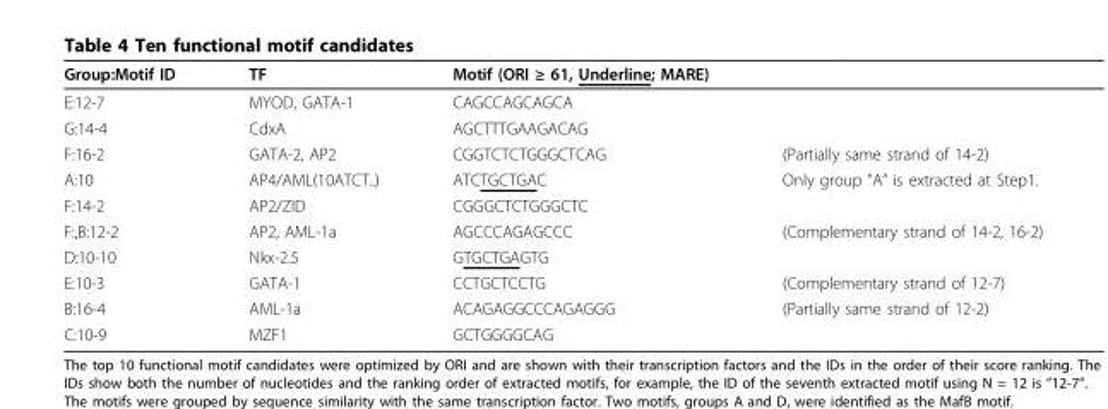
<table><thead><tr><td>Group:Motif ID</td><td>TF</td><td>Motif (ORI ≥ 61, Underline; MARE)</td><td></td></tr></thead><tbody><tr><td>E:12-7</td><td>MYOD, GATA-1</td><td>CAGCCAGCAGCA</td><td></td></tr><tr><td>G:14-4</td><td>CdxA</td><td>AGCTTTGAAGACAG</td><td></td></tr><tr><td>F:16-2</td><td>GATA-2, AP2</td><td>CGGTCTCTGGGCTCAG</td><td>(Partially same strand of 14-2)</td></tr><tr><td>A:10</td><td>AP4/AML(10ATCT..)</td><td>ATCTGCTGAC</td><td>Only group ”A” is extracted at Step1.</td></tr><tr><td>F:14-2</td><td>AP2/ZID</td><td>CGGGCTCTGGGCTC</td><td></td></tr><tr><td>F:,B:12-2</td><td>AP2, AML-1a</td><td>AGCCCAGAGCCC</td><td>(Complementary strand of 14-2, 16-2)</td></tr><tr><td>D:10-10</td><td>Nkx-2.5</td><td>GTGCTGAGTG</td><td></td></tr><tr><td>E:10-3</td><td>GATA-1</td><td>CCTGCTCCTG</td><td>(Complementary strand of 12-7)</td></tr><tr><td>B:16-4</td><td>AML-1a</td><td>ACAGAGGCCCAGAGGG</td><td>(Partially same strand of 12-2)</td></tr><tr><td>C:10-9</td><td>MZF1</td><td>GCTGGGGCAG</td><td></td></tr></tbody></table>